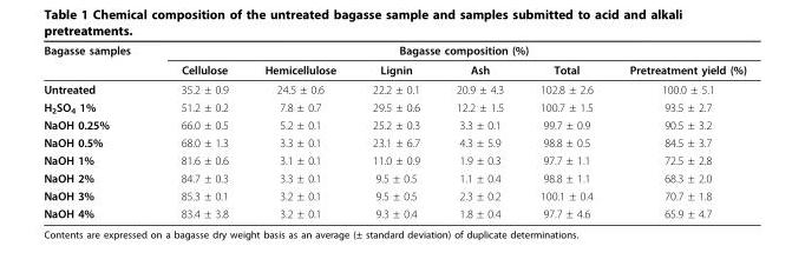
<table><thead><tr><td rowspan="2">Bagasse samples</td><td colspan="6">Bagasse composition (%)</td></tr><tr><td>Cellulose</td><td>Hemicellulose</td><td>Lignin</td><td>Ash</td><td>Total</td><td>Pretreatment yield (%)</td></tr></thead><tbody><tr><td>Untreated</td><td>35.2 ± 0.9</td><td>24.5 ± 0.6</td><td>22.2 ± 0.1</td><td>20.9 ± 4.3</td><td>102.8 ± 2.6</td><td>100.0 ± 5.1</td></tr><tr><td>H<sub>2</sub>SO<sub>4</sub> 1%</td><td>51.2 ± 0.2</td><td>7.8 ± 0.7</td><td>29.5 ± 0.6</td><td>12.2 ± 1.5</td><td>100.7 ± 1.5</td><td>93.5 ± 2.7</td></tr><tr><td>NaOH 0.25%</td><td>66.0 ± 0.5</td><td>5.2 ± 0.1</td><td>25.2 ± 0.3</td><td>3.3 ± 0.1</td><td>99.7 ± 0.9</td><td>90.5 ± 3.2</td></tr><tr><td>NaOH 0.5%</td><td>68.0 ± 1.3</td><td>3.3 ± 0.1</td><td>23.1 ± 6.7</td><td>4.3 ± 5.9</td><td>98.8 ± 0.5</td><td>84.5 ± 3.7</td></tr><tr><td>NaOH 1%</td><td>81.6 ± 0.6</td><td>3.1 ± 0.1</td><td>11.0 ± 0.9</td><td>1.9 ± 0.3</td><td>97.7 ± 1.1</td><td>72.5 ± 2.8</td></tr><tr><td>NaOH 2%</td><td>84.7 ± 0.3</td><td>3.3 ± 0.1</td><td>9.5 ± 0.5</td><td>1.1 ± 0.4</td><td>98.8 ± 1.1</td><td>68.3 ± 2.0</td></tr><tr><td>NaOH 3%</td><td>85.3 ± 0.1</td><td>3.2 ± 0.1</td><td>9.5 ± 0.5</td><td>2.3 ± 0.2</td><td>100.1 ± 0.4</td><td>70.7 ± 1.8</td></tr><tr><td>NaOH 4%</td><td>83.4 ± 3.8</td><td>3.2 ± 0.1</td><td>9.3 ± 0.4</td><td>1.8 ± 0.4</td><td>97.7 ± 4.6</td><td>65.9 ± 4.7</td></tr></tbody></table>